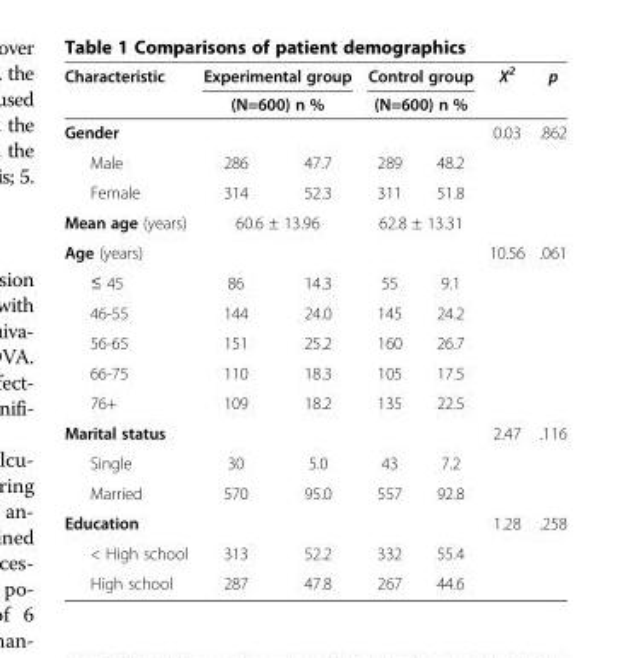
<table><thead><tr><td rowspan="3">Characteristic Gender</td><td rowspan="2" colspan="2">Experimental group (N=600) n %</td><td rowspan="2" colspan="2">Control group (N=600) n %</td><td rowspan="3">X<sup>2</sup> 0.03</td><td rowspan="3">p .862</td></tr><tr></tr><tr><td></td><td></td><td></td><td></td></tr></thead><tbody><tr><td>Male</td><td>286</td><td>47.7</td><td>289</td><td>48.2</td><td></td><td></td></tr><tr><td>Female</td><td>314</td><td>52.3</td><td>311</td><td>51.8</td><td></td><td></td></tr><tr><td>Mean age (years)</td><td colspan="2">60.6 ± 13.96</td><td colspan="2">62.8 ± 13.31</td><td></td><td></td></tr><tr><td>Age (years)</td><td></td><td></td><td></td><td></td><td>10.56</td><td>.061</td></tr><tr><td>≤ 45</td><td>86</td><td>14.3</td><td>55</td><td>9.1</td><td></td><td></td></tr><tr><td>46-55</td><td>144</td><td>24.0</td><td>145</td><td>24.2</td><td></td><td></td></tr><tr><td>56-65</td><td>151</td><td>25.2</td><td>160</td><td>26.7</td><td></td><td></td></tr><tr><td>66-75</td><td>110</td><td>18.3</td><td>105</td><td>17.5</td><td></td><td></td></tr><tr><td>76+</td><td>109</td><td>18.2</td><td>135</td><td>22.5</td><td></td><td></td></tr><tr><td>Marital status</td><td></td><td></td><td></td><td></td><td>2.47</td><td>.116</td></tr><tr><td>Single</td><td>30</td><td>5.0</td><td>43</td><td>7.2</td><td></td><td></td></tr><tr><td>Married</td><td>570</td><td>95.0</td><td>557</td><td>92.8</td><td></td><td></td></tr><tr><td>Education</td><td></td><td></td><td></td><td></td><td>1.28</td><td>.258</td></tr><tr><td>&lt; High school</td><td>313</td><td>52.2</td><td>332</td><td>55.4</td><td></td><td></td></tr><tr><td>High school</td><td>287</td><td>47.8</td><td>267</td><td>44.6</td><td></td><td></td></tr></tbody></table>